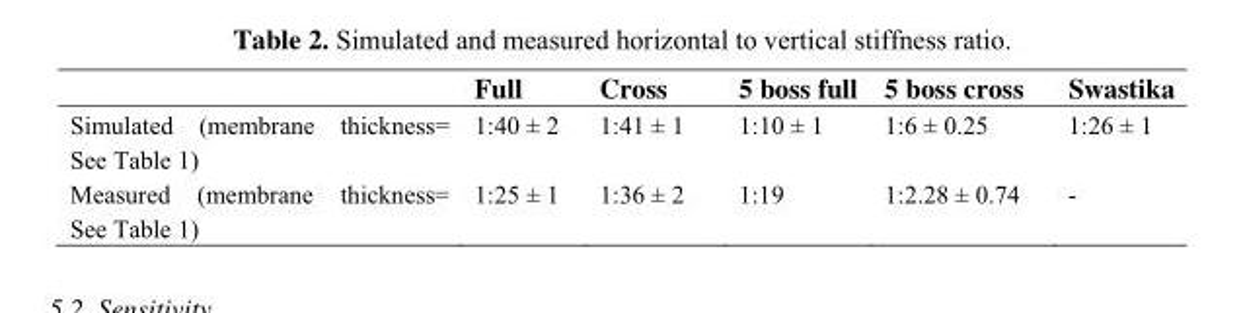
<table><thead><tr><td></td><td>Full</td><td>Cross</td><td>5 boss full</td><td>5 boss cross</td><td>Swastika</td></tr></thead><tbody><tr><td>Simulated (membrane thickness= See Table 1)</td><td>1:40 ± 2</td><td>1:41 ± 1</td><td>1:10 ± 1</td><td>1:6 ± 0.25</td><td>1:26 ± 1</td></tr><tr><td>Measured (membrane thickness= See Table 1)</td><td>1:25 ± 1</td><td>1:36 ± 2</td><td>1:19</td><td>1:2.28 ± 0.74</td><td>-</td></tr></tbody></table>